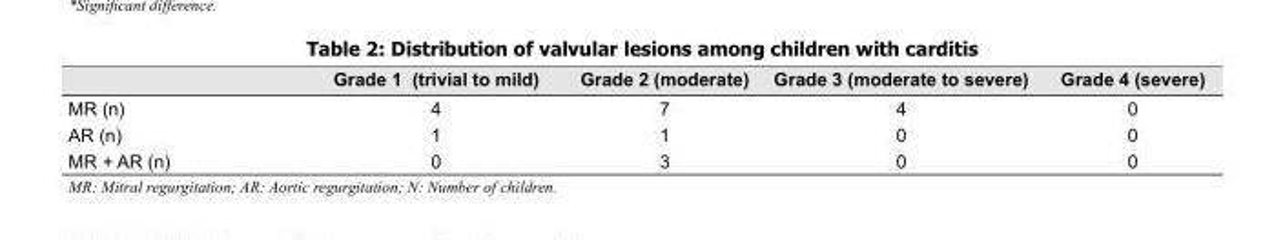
<table><thead><tr><td></td><td>Grade 1 (trivial to mild)</td><td>Grade 2 (moderate)</td><td>Grade 3 (moderate to severe)</td><td>Grade 4 (severe)</td></tr></thead><tbody><tr><td>MR (n)</td><td>4</td><td>7</td><td>4</td><td>0</td></tr><tr><td>AR (n)</td><td>1</td><td>1</td><td>0</td><td>0</td></tr><tr><td>MR + AR (n)</td><td>0</td><td>3</td><td>0</td><td>0</td></tr></tbody></table>